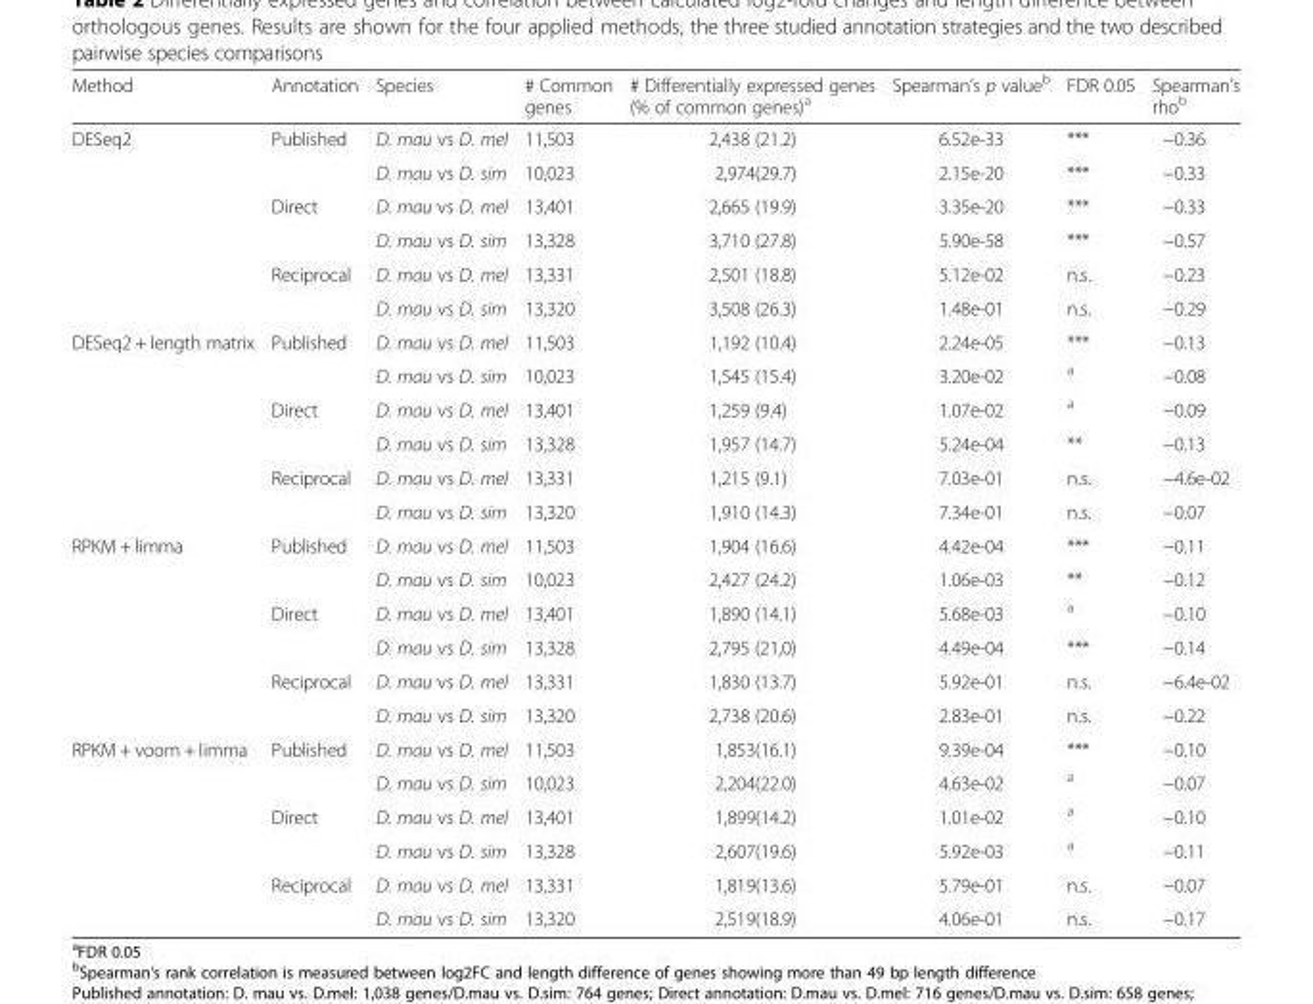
<table><thead><tr><td>Method</td><td>Annotation</td><td>Species</td><td># Common genes</td><td># Differentially expressed genes (% of common genes)<sup>a</sup></td><td>Spearman’s p value<sup>b</sup></td><td>FDR 0.05</td><td>Spearman’s rho<sup>b</sup></td></tr></thead><tbody><tr><td rowspan="6">DESeq2</td><td rowspan="2">Published</td><td>D. mau vs D. mel</td><td>11,503</td><td>2,438 (21.2)</td><td>6.52e-33</td><td>***</td><td>−0.36</td></tr><tr><td>D. mau vs D. sim</td><td>10,023</td><td>2,974(29.7)</td><td>2.15e-20</td><td>***</td><td>−0.33</td></tr><tr><td rowspan="2">Direct</td><td>D. mau vs D. mel</td><td>13,401</td><td>2,665 (19.9)</td><td>3.35e-20</td><td>***</td><td>−0.33</td></tr><tr><td>D. mau vs D. sim</td><td>13,328</td><td>3,710 (27.8)</td><td>5.90e-58</td><td>***</td><td>−0.57</td></tr><tr><td rowspan="2">Reciprocal</td><td>D. mau vs D. mel</td><td>13,331</td><td>2,501 (18.8)</td><td>5.12e-02</td><td>n.s.</td><td>−0.23</td></tr><tr><td>D. mau vs D. sim</td><td>13,320</td><td>3,508 (26.3)</td><td>1.48e-01</td><td>n.s.</td><td>−0.29</td></tr><tr><td rowspan="6">DESeq2 + length matrix</td><td rowspan="2">Published</td><td>D. mau vs D. mel</td><td>11,503</td><td>1,192 (10.4)</td><td>2.24e-05</td><td>***</td><td>−0.13</td></tr><tr><td>D. mau vs D. sim</td><td>10,023</td><td>1,545 (15.4)</td><td>3.20e-02</td><td><sup>a</sup></td><td>−0.08</td></tr><tr><td rowspan="2">Direct</td><td>D. mau vs D. mel</td><td>13,401</td><td>1,259 (9.4)</td><td>1.07e-02</td><td><sup>a</sup></td><td>−0.09</td></tr><tr><td>D. mau vs D. sim</td><td>13,328</td><td>1,957 (14.7)</td><td>5.24e-04</td><td>**</td><td>−0.13</td></tr><tr><td rowspan="2">Reciprocal</td><td>D. mau vs D. mel</td><td>13,331</td><td>1,215 (9.1)</td><td>7.03e-01</td><td>n.s.</td><td>−4.6e-02</td></tr><tr><td>D. mau vs D. sim</td><td>13,320</td><td>1,910 (14.3)</td><td>7.34e-01</td><td>n.s.</td><td>−0.07</td></tr><tr><td rowspan="6">RPKM + limma</td><td rowspan="2">Published</td><td>D. mau vs D. mel</td><td>11,503</td><td>1,904 (16.6)</td><td>4.42e-04</td><td>***</td><td>−0.11</td></tr><tr><td>D. mau vs D. sim</td><td>10,023</td><td>2,427 (24.2)</td><td>1.06e-03</td><td>**</td><td>−0.12</td></tr><tr><td rowspan="2">Direct</td><td>D. mau vs D. mel</td><td>13,401</td><td>1,890 (14.1)</td><td>5.68e-03</td><td><sup>a</sup></td><td>−0.10</td></tr><tr><td>D. mau vs D. sim</td><td>13,328</td><td>2,795 (21,0)</td><td>4.49e-04</td><td>***</td><td>−0.14</td></tr><tr><td rowspan="2">Reciprocal</td><td>D. mau vs D. mel</td><td>13,331</td><td>1,830 (13.7)</td><td>5.92e-01</td><td>n.s.</td><td>−6.4e-02</td></tr><tr><td>D. mau vs D. sim</td><td>13,320</td><td>2,738 (20.6)</td><td>2.83e-01</td><td>n.s.</td><td>−0.22</td></tr><tr><td rowspan="6">RPKM + voom + limma</td><td rowspan="2">Published</td><td>D. mau vs D. mel</td><td>11,503</td><td>1,853(16.1)</td><td>9.39e-04</td><td>***</td><td>−0.10</td></tr><tr><td>D. mau vs D. sim</td><td>10,023</td><td>2,204(22.0)</td><td>4.63e-02</td><td><sup>a</sup></td><td>−0.07</td></tr><tr><td rowspan="2">Direct</td><td>D. mau vs D. mel</td><td>13,401</td><td>1,899(14.2)</td><td>1.01e-02</td><td><sup>a</sup></td><td>−0.10</td></tr><tr><td>D. mau vs D. sim</td><td>13,328</td><td>2,607(19.6)</td><td>5.92e-03</td><td><sup>a</sup></td><td>−0.11</td></tr><tr><td rowspan="2">Reciprocal</td><td>D. mau vs D. mel</td><td>13,331</td><td>1,819(13.6)</td><td>5.79e-01</td><td>n.s.</td><td>−0.07</td></tr><tr><td>D. mau vs D. sim</td><td>13,320</td><td>2,519(18.9)</td><td>4.06e-01</td><td>n.s.</td><td>−0.17</td></tr></tbody></table>